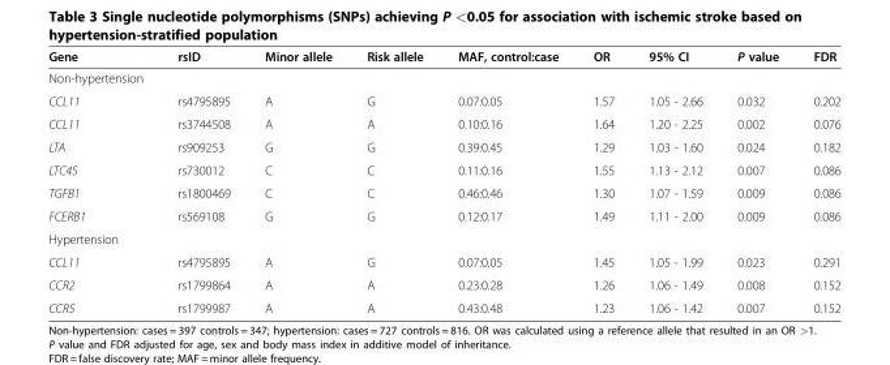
<table><thead><tr><td>Gene</td><td>rsID</td><td>Minor allele</td><td>Risk allele</td><td>MAF, control:case</td><td>OR</td><td>95% CI</td><td>P value</td><td>FDR</td></tr></thead><tbody><tr><td colspan="9">Non-hypertension</td></tr><tr><td>CCL11</td><td>rs4795895</td><td>A</td><td>G</td><td>0.07:0.05</td><td>1.57</td><td>1.05 - 2.66</td><td>0.032</td><td>0.202</td></tr><tr><td>CCL11</td><td>rs3744508</td><td>A</td><td>A</td><td>0.10:0.16</td><td>1.64</td><td>1.20 - 2.25</td><td>0.002</td><td>0.076</td></tr><tr><td>LTA</td><td>rs909253</td><td>G</td><td>G</td><td>0.39:0.45</td><td>1.29</td><td>1.03 - 1.60</td><td>0.024</td><td>0.182</td></tr><tr><td>LTC4S</td><td>rs730012</td><td>C</td><td>C</td><td>0.11:0.16</td><td>1.55</td><td>1.13 - 2.12</td><td>0.007</td><td>0.086</td></tr><tr><td>TGFB1</td><td>rs1800469</td><td>C</td><td>C</td><td>0.46:0.46</td><td>1.30</td><td>1.07 - 1.59</td><td>0.009</td><td>0.086</td></tr><tr><td>FCERB1</td><td>rs569108</td><td>G</td><td>G</td><td>0.12:0.17</td><td>1.49</td><td>1.11 - 2.00</td><td>0.009</td><td>0.086</td></tr><tr><td colspan="9">Hypertension</td></tr><tr><td>CCL11</td><td>rs4795895</td><td>A</td><td>G</td><td>0.07:0.05</td><td>1.45</td><td>1.05 - 1.99</td><td>0.023</td><td>0.291</td></tr><tr><td>CCR2</td><td>rs1799864</td><td>A</td><td>A</td><td>0.23:0.28</td><td>1.26</td><td>1.06 - 1.49</td><td>0.008</td><td>0.152</td></tr><tr><td>CCR5</td><td>rs1799987</td><td>A</td><td>A</td><td>0.43:0.48</td><td>1.23</td><td>1.06 - 1.42</td><td>0.007</td><td>0.152</td></tr></tbody></table>